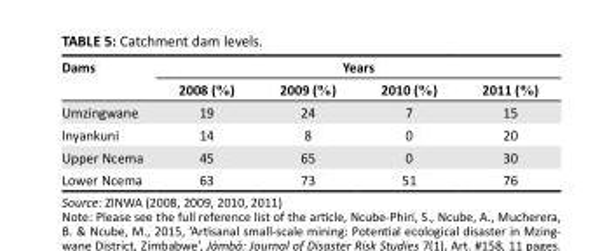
<table><thead><tr><td rowspan="2">Dams</td><td colspan="4">Years</td></tr><tr><td>2008 (%)</td><td>2009 (%)</td><td>2010 (%)</td><td>2011 (%)</td></tr></thead><tbody><tr><td>Umzingwane</td><td>19</td><td>24</td><td>7</td><td>15</td></tr><tr><td>Inyankuni</td><td>14</td><td>8</td><td>0</td><td>20</td></tr><tr><td>Upper Ncema</td><td>45</td><td>65</td><td>0</td><td>30</td></tr><tr><td>Lower Ncema</td><td>63</td><td>73</td><td>51</td><td>76</td></tr></tbody></table>